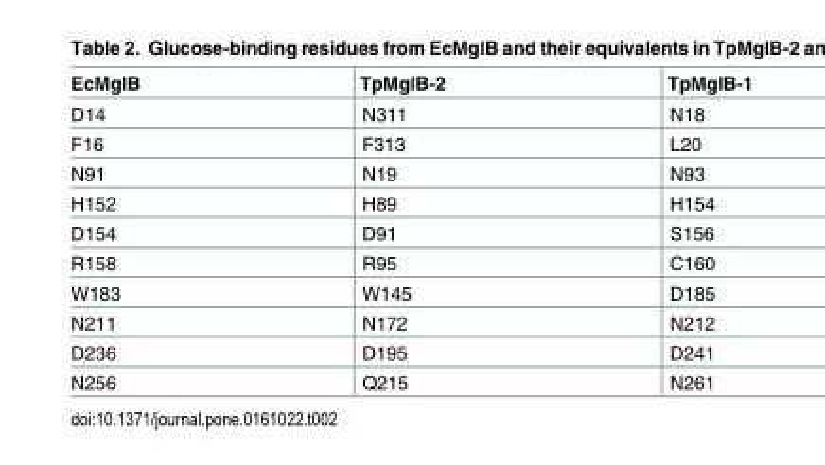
<table><thead><tr><td>EcMglB</td><td>TpMglB-2</td><td>TpMglB-1</td></tr></thead><tbody><tr><td>D14</td><td>N311</td><td>N18</td></tr><tr><td>F16</td><td>F313</td><td>L20</td></tr><tr><td>N91</td><td>N19</td><td>N93</td></tr><tr><td>H152</td><td>H89</td><td>H154</td></tr><tr><td>D154</td><td>D91</td><td>S156</td></tr><tr><td>R158</td><td>R95</td><td>C160</td></tr><tr><td>W183</td><td>W145</td><td>D185</td></tr><tr><td>N211</td><td>N172</td><td>N212</td></tr><tr><td>D236</td><td>D195</td><td>D241</td></tr><tr><td>N256</td><td>Q215</td><td>N261</td></tr></tbody></table>